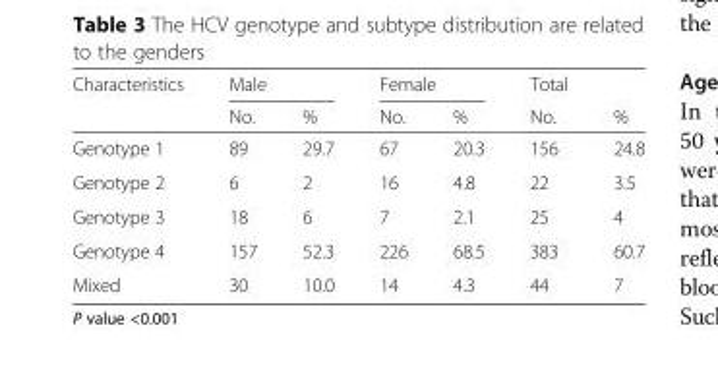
<table><thead><tr><td rowspan="2">Characteristics</td><td colspan="2">Male</td><td colspan="2">Female</td><td rowspan="2">Total No.</td><td rowspan="2">%</td></tr><tr><td>No.</td><td>%</td><td>No.</td><td>%</td></tr></thead><tbody><tr><td>Genotype 1</td><td>89</td><td>29.7</td><td>67</td><td>20.3</td><td>156</td><td>24.8</td></tr><tr><td>Genotype 2</td><td>6</td><td>2</td><td>16</td><td>4.8</td><td>22</td><td>3.5</td></tr><tr><td>Genotype 3</td><td>18</td><td>6</td><td>7</td><td>2.1</td><td>25</td><td>4</td></tr><tr><td>Genotype 4</td><td>157</td><td>52.3</td><td>226</td><td>68.5</td><td>383</td><td>60.7</td></tr><tr><td>Mixed</td><td>30</td><td>10.0</td><td>14</td><td>4.3</td><td>44</td><td>7</td></tr></tbody></table>